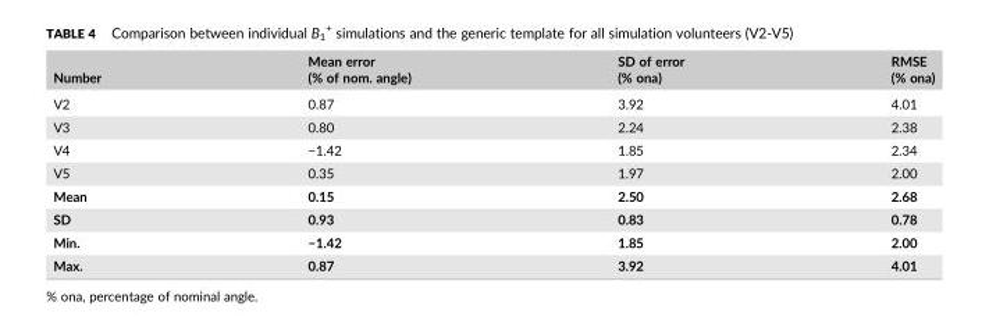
<table><thead><tr><td>Number</td><td>Mean error (% of nom. angle)</td><td>SD of error (% ona)</td><td>RMSE (% ona)</td></tr></thead><tbody><tr><td>V2</td><td>0.87</td><td>3.92</td><td>4.01</td></tr><tr><td>V3</td><td>0.80</td><td>2.24</td><td>2.38</td></tr><tr><td>V4</td><td>−1.42</td><td>1.85</td><td>2.34</td></tr><tr><td>V5</td><td>0.35</td><td>1.97</td><td>2.00</td></tr><tr><td>Mean</td><td>0.15</td><td>2.50</td><td>2.68</td></tr><tr><td>SD</td><td>0.93</td><td>0.83</td><td>0.78</td></tr><tr><td>Min.</td><td>−1.42</td><td>1.85</td><td>2.00</td></tr><tr><td>Max.</td><td>0.87</td><td>3.92</td><td>4.01</td></tr></tbody></table>